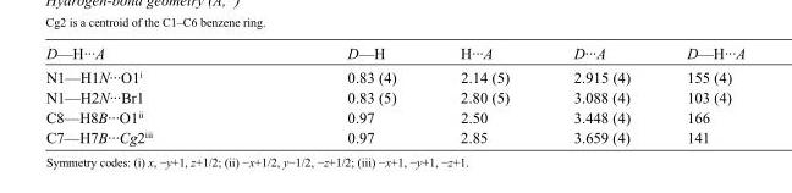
<table><tbody><tr><td>D—H···A</td><td>D—H</td><td>H···A</td><td>D···A</td><td>D—H···A</td></tr><tr><td>N1—H1N···O1<sup>i</sup></td><td>0.83 (4)</td><td>2.14 (5)</td><td>2.915 (4)</td><td>155 (4)</td></tr><tr><td>N1—H2N···Br1</td><td>0.83 (5)</td><td>2.80 (5)</td><td>3.088 (4)</td><td>103 (4)</td></tr><tr><td>C8—H8B···O1<sup>ii</sup></td><td>0.97</td><td>2.50</td><td>3.448 (4)</td><td>166</td></tr><tr><td>C7—H7B···Cg2<sup>iii</sup></td><td>0.97</td><td>2.85</td><td>3.659 (4)</td><td>141</td></tr></tbody></table>